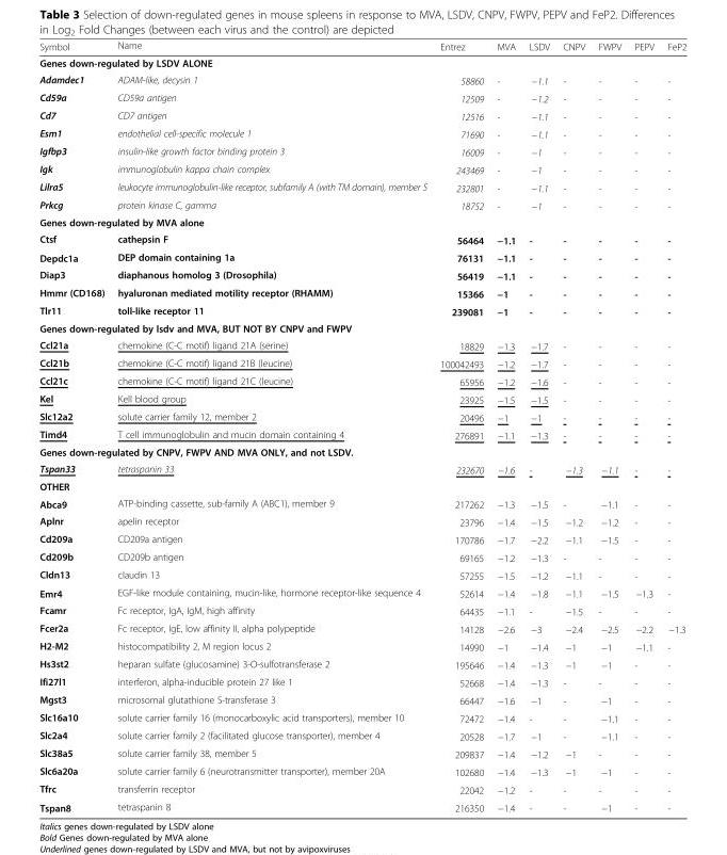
<table><thead><tr><td>Symbol</td><td>Name</td><td>Entrez</td><td>MVA</td><td>LSDV</td><td>CNPV</td><td>FWPV</td><td>PEPV</td><td>FeP2</td></tr></thead><tbody><tr><td colspan="9">Genes down-regulated by LSDV ALONE</td></tr><tr><td>Adamdec1</td><td>ADAM-like, decysin 1</td><td>58860</td><td>-</td><td>−1.1</td><td>-</td><td>-</td><td>-</td><td>-</td></tr><tr><td>Cd59a</td><td>CD59a antigen</td><td>12509</td><td>-</td><td>−1.2</td><td>-</td><td>-</td><td>-</td><td>-</td></tr><tr><td>Cd7</td><td>CD7 antigen</td><td>12516</td><td>-</td><td>−1.1</td><td>-</td><td>-</td><td>-</td><td>-</td></tr><tr><td>Esm1</td><td>endothelial cell-specific molecule 1</td><td>71690</td><td>-</td><td>−1.1</td><td>-</td><td>-</td><td>-</td><td>-</td></tr><tr><td>Igfbp3</td><td>insulin-like growth factor binding protein 3</td><td>16009</td><td>-</td><td>−1</td><td>-</td><td>-</td><td>-</td><td>-</td></tr><tr><td>Igk</td><td>immunoglobulin kappa chain complex</td><td>243469</td><td>-</td><td>−1</td><td>-</td><td>-</td><td>-</td><td>-</td></tr><tr><td>Lilra5</td><td>leukocyte immunoglobulin-like receptor, subfamily A (with TM domain), member 5</td><td>232801</td><td>-</td><td>−1.1</td><td>-</td><td>-</td><td>-</td><td>-</td></tr><tr><td>Prkcg</td><td>protein kinase C, gamma</td><td>18752</td><td>-</td><td>−1</td><td>-</td><td>-</td><td>-</td><td>-</td></tr><tr><td colspan="9">Genes down-regulated by MVA alone</td></tr><tr><td>Ctsf</td><td>cathepsin F</td><td>56464</td><td>−1.1</td><td>-</td><td>-</td><td>-</td><td>-</td><td>-</td></tr><tr><td>Depdc1a</td><td>DEP domain containing 1a</td><td>76131</td><td>−1.1</td><td>-</td><td>-</td><td>-</td><td>-</td><td>-</td></tr><tr><td>Diap3</td><td>diaphanous homolog 3 (Drosophila)</td><td>56419</td><td>−1.1</td><td>-</td><td>-</td><td>-</td><td>-</td><td>-</td></tr><tr><td>Hmmr (CD168)</td><td>hyaluronan mediated motility receptor (RHAMM)</td><td>15366</td><td>−1</td><td>-</td><td>-</td><td>-</td><td>-</td><td>-</td></tr><tr><td>Tlr11</td><td>toll-like receptor 11</td><td>239081</td><td>−1</td><td>-</td><td>-</td><td>-</td><td>-</td><td>-</td></tr><tr><td colspan="9">Genes down-regulated by lsdv and MVA, BUT NOT BY CNPV and FWPV</td></tr><tr><td>Ccl21a</td><td>chemokine (C-C motif) ligand 21A (serine)</td><td>18829</td><td>−1.3</td><td>−1.7</td><td>-</td><td>-</td><td>-</td><td>-</td></tr><tr><td>Ccl21b</td><td>chemokine (C-C motif) ligand 21B (leucine)</td><td>100042493</td><td>−1.2</td><td>−1.7</td><td>-</td><td>-</td><td>-</td><td>-</td></tr><tr><td>Ccl21c</td><td>chemokine (C-C motif) ligand 21C (leucine)</td><td>65956</td><td>−1.2</td><td>−1.6</td><td>-</td><td>-</td><td>-</td><td>-</td></tr><tr><td>Kel</td><td>Kell blood group</td><td>23925</td><td>−1.5</td><td>−1.5</td><td>-</td><td>-</td><td>-</td><td>-</td></tr><tr><td>Slc12a2</td><td>solute carrier family 12, member 2</td><td>20496</td><td>−1</td><td>−1</td><td>-</td><td>-</td><td>-</td><td>-</td></tr><tr><td>Timd4</td><td>T cell immunoglobulin and mucin domain containing 4</td><td>276891</td><td>−1.1</td><td>−1.3</td><td>-</td><td>-</td><td>-</td><td>-</td></tr><tr><td colspan="9">Genes down-regulated by CNPV, FWPV AND MVA ONLY, and not LSDV.</td></tr><tr><td>Tspan33</td><td>tetraspanin 33</td><td>232670</td><td>−1.6</td><td>-</td><td>−1.3</td><td>−1.1</td><td>-</td><td>-</td></tr><tr><td colspan="9">OTHER</td></tr><tr><td>Abca9</td><td>ATP-binding cassette, sub-family A (ABC1), member 9</td><td>217262</td><td>−1.3</td><td>−1.5</td><td>-</td><td>−1.1</td><td>-</td><td>-</td></tr><tr><td>Aplnr</td><td>apelin receptor</td><td>23796</td><td>−1.4</td><td>−1.5</td><td>−1.2</td><td>−1.2</td><td>-</td><td>-</td></tr><tr><td>Cd209a</td><td>CD209a antigen</td><td>170786</td><td>−1.7</td><td>−2.2</td><td>−1.1</td><td>−1.5</td><td>-</td><td>-</td></tr><tr><td>Cd209b</td><td>CD209b antigen</td><td>69165</td><td>−1.2</td><td>−1.3</td><td>-</td><td>-</td><td>-</td><td>-</td></tr><tr><td>Cldn13</td><td>claudin 13</td><td>57255</td><td>−1.5</td><td>−1.2</td><td>−1.1</td><td>-</td><td>-</td><td>-</td></tr><tr><td>Emr4</td><td>EGF-like module containing, mucin-like, hormone receptor-like sequence 4</td><td>52614</td><td>−1.4</td><td>−1.8</td><td>−1.1</td><td>−1.5</td><td>−1.3</td><td>-</td></tr><tr><td>Fcamr</td><td>Fc receptor, IgA, IgM, high affinity</td><td>64435</td><td>−1.1</td><td>-</td><td>−1.5</td><td>-</td><td>-</td><td>-</td></tr><tr><td>Fcer2a</td><td>Fc receptor, IgE, low affinity II, alpha polypeptide</td><td>14128</td><td>−2.6</td><td>−3</td><td>−2.4</td><td>−2.5</td><td>−2.2</td><td>−1.3</td></tr><tr><td>H2-M2</td><td>histocompatibility 2, M region locus 2</td><td>14990</td><td>−1</td><td>−1.4</td><td>−1</td><td>−1</td><td>−1.1</td><td>-</td></tr><tr><td>Hs3st2</td><td>heparan sulfate (glucosamine) 3-O-sulfotransferase 2</td><td>195646</td><td>−1.4</td><td>−1.3</td><td>−1</td><td>−1</td><td>-</td><td>-</td></tr><tr><td>Ifi27l1</td><td>interferon, alpha-inducible protein 27 like 1</td><td>52668</td><td>−1.4</td><td>−1.3</td><td>-</td><td>-</td><td>-</td><td>-</td></tr><tr><td>Mgst3</td><td>microsomal glutathione S-transferase 3</td><td>66447</td><td>−1.6</td><td>−1</td><td>-</td><td>−1</td><td>-</td><td>-</td></tr><tr><td>Slc16a10</td><td>solute carrier family 16 (monocarboxylic acid transporters), member 10</td><td>72472</td><td>−1.4</td><td>-</td><td>-</td><td>−1.1</td><td>-</td><td>-</td></tr><tr><td>Slc2a4</td><td>solute carrier family 2 (facilitated glucose transporter), member 4</td><td>20528</td><td>−1.7</td><td>−1</td><td>-</td><td>−1.1</td><td>-</td><td>-</td></tr><tr><td>Slc38a5</td><td>solute carrier family 38, member 5</td><td>209837</td><td>−1.4</td><td>−1.2</td><td>−1</td><td>-</td><td>-</td><td>-</td></tr><tr><td>Slc6a20a</td><td>solute carrier family 6 (neurotransmitter transporter), member 20A</td><td>102680</td><td>−1.4</td><td>−1.3</td><td>−1</td><td>−1</td><td>-</td><td>-</td></tr><tr><td>Tfrc</td><td>transferrin receptor</td><td>22042</td><td>−1.2</td><td>-</td><td>-</td><td>-</td><td>-</td><td>-</td></tr><tr><td>Tspan8</td><td>tetraspanin 8</td><td>216350</td><td>−1.4</td><td>-</td><td>-</td><td>−1</td><td>-</td><td>-</td></tr></tbody></table>